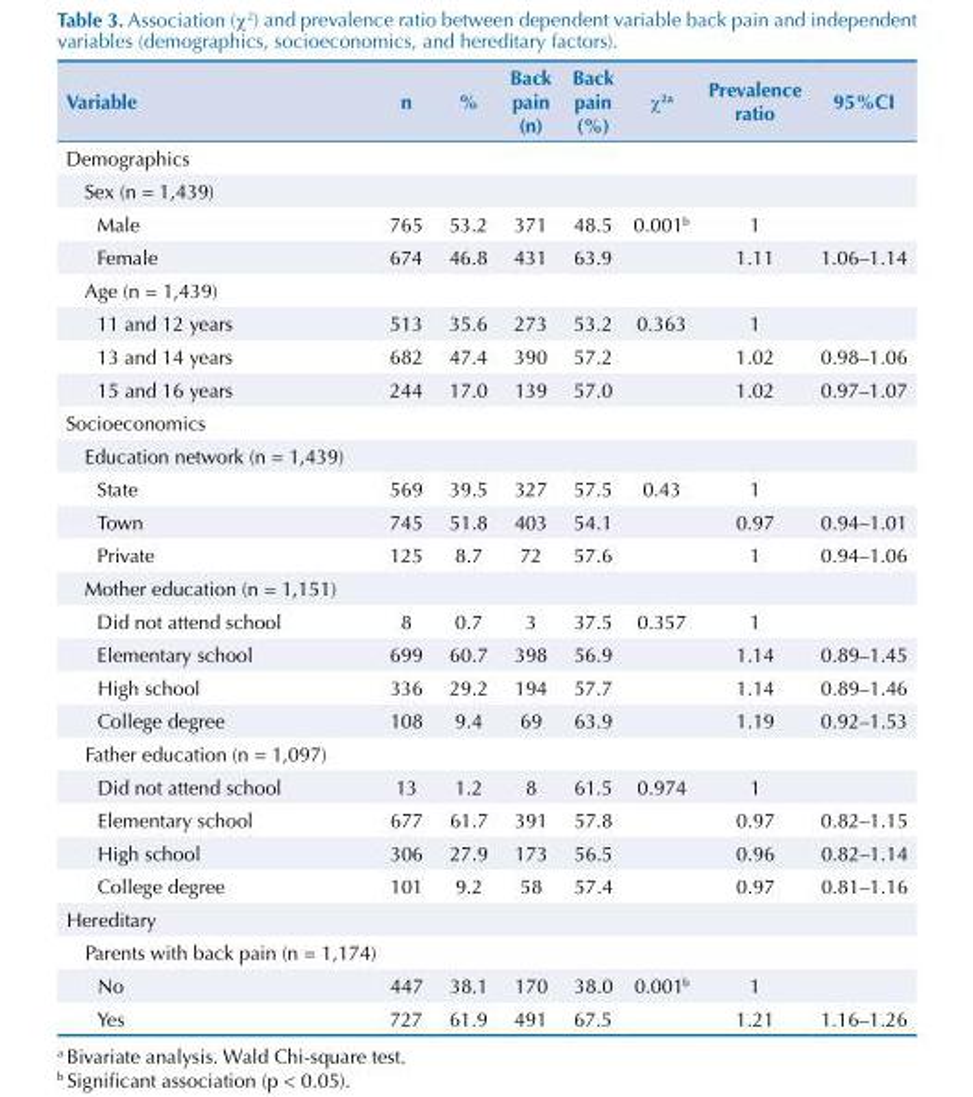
<table><thead><tr><td>Variable</td><td>n</td><td>%</td><td>Back pain (n)</td><td>Back pain (%)</td><td>χ<sup>2a</sup></td><td>Prevalence ratio</td><td>95%CI</td></tr></thead><tbody><tr><td colspan="8">Demographics</td></tr><tr><td colspan="8">Sex (n = 1,439)</td></tr><tr><td>Male</td><td>765</td><td>53.2</td><td>371</td><td>48.5</td><td>0.001<sup>b</sup></td><td>1</td><td></td></tr><tr><td>Female</td><td>674</td><td>46.8</td><td>431</td><td>63.9</td><td></td><td>1.11</td><td>1.06–1.14</td></tr><tr><td colspan="8">Age (n = 1,439)</td></tr><tr><td>11 and 12 years</td><td>513</td><td>35.6</td><td>273</td><td>53.2</td><td>0.363</td><td>1</td><td></td></tr><tr><td>13 and 14 years</td><td>682</td><td>47.4</td><td>390</td><td>57.2</td><td></td><td>1.02</td><td>0.98–1.06</td></tr><tr><td>15 and 16 years</td><td>244</td><td>17.0</td><td>139</td><td>57.0</td><td></td><td>1.02</td><td>0.97–1.07</td></tr><tr><td colspan="8">Socioeconomics</td></tr><tr><td colspan="8">Education network (n = 1,439)</td></tr><tr><td>State</td><td>569</td><td>39.5</td><td>327</td><td>57.5</td><td>0.43</td><td>1</td><td></td></tr><tr><td>Town</td><td>745</td><td>51.8</td><td>403</td><td>54.1</td><td></td><td>0.97</td><td>0.94–1.01</td></tr><tr><td>Private</td><td>125</td><td>8.7</td><td>72</td><td>57.6</td><td></td><td>1</td><td>0.94–1.06</td></tr><tr><td colspan="8">Mother education (n = 1,151)</td></tr><tr><td>Did not attend school</td><td>8</td><td>0.7</td><td>3</td><td>37.5</td><td>0.357</td><td>1</td><td></td></tr><tr><td>Elementary school</td><td>699</td><td>60.7</td><td>398</td><td>56.9</td><td></td><td>1.14</td><td>0.89–1.45</td></tr><tr><td>High school</td><td>336</td><td>29.2</td><td>194</td><td>57.7</td><td></td><td>1.14</td><td>0.89–1.46</td></tr><tr><td>College degree</td><td>108</td><td>9.4</td><td>69</td><td>63.9</td><td></td><td>1.19</td><td>0.92–1.53</td></tr><tr><td colspan="8">Father education (n = 1,097)</td></tr><tr><td>Did not attend school</td><td>13</td><td>1.2</td><td>8</td><td>61.5</td><td>0.974</td><td>1</td><td></td></tr><tr><td>Elementary school</td><td>677</td><td>61.7</td><td>391</td><td>57.8</td><td></td><td>0.97</td><td>0.82–1.15</td></tr><tr><td>High school</td><td>306</td><td>27.9</td><td>173</td><td>56.5</td><td></td><td>0.96</td><td>0.82–1.14</td></tr><tr><td>College degree</td><td>101</td><td>9.2</td><td>58</td><td>57.4</td><td></td><td>0.97</td><td>0.81–1.16</td></tr><tr><td colspan="8">Hereditary</td></tr><tr><td colspan="8">Parents with back pain (n = 1,174)</td></tr><tr><td>No</td><td>447</td><td>38.1</td><td>170</td><td>38.0</td><td>0.001<sup>b</sup></td><td>1</td><td></td></tr><tr><td>Yes</td><td>727</td><td>61.9</td><td>491</td><td>67.5</td><td></td><td>1.21</td><td>1.16–1.26</td></tr></tbody></table>